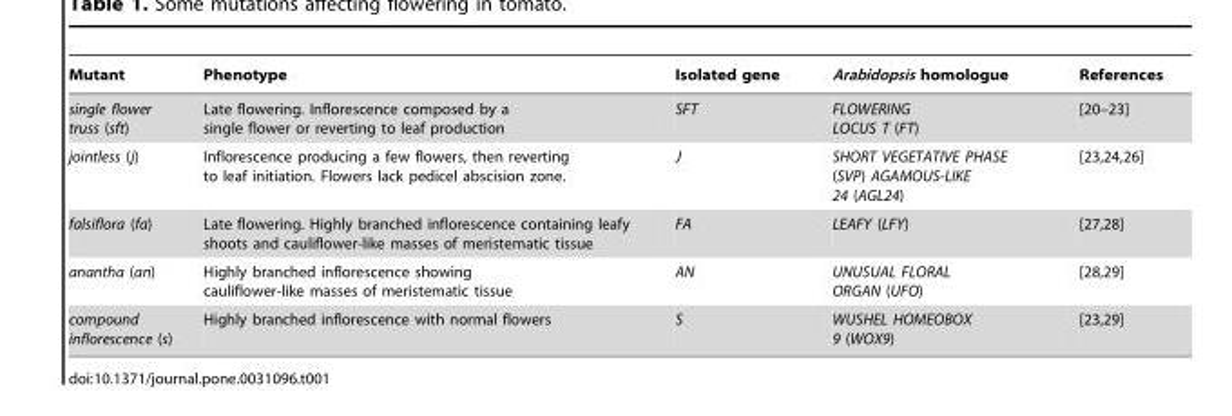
<table><thead><tr><td>Mutant</td><td>Phenotype</td><td>Isolated gene</td><td>Arabidopsis homologue</td><td>References</td></tr></thead><tbody><tr><td>single flower truss (sft)</td><td>Late flowering. Inflorescence composed by a single flower or reverting to leaf production</td><td>SFT</td><td>FLOWERING LOCUS T (FT)</td><td>[20–23]</td></tr><tr><td>jointless (j)</td><td>Inflorescence producing a few flowers, then reverting to leaf initiation. Flowers lack pedicel abscision zone.</td><td>J</td><td>SHORT VEGETATIVE PHASE (SVP) AGAMOUS-LIKE 24 (AGL24)</td><td>[23,24,26]</td></tr><tr><td>falsiflora (fa)</td><td>Late flowering. Highly branched inflorescence containing leafy shoots and cauliflower-like masses of meristematic tissue</td><td>FA</td><td>LEAFY (LFY)</td><td>[27,28]</td></tr><tr><td>anantha (an)</td><td>Highly branched inflorescence showing cauliflower-like masses of meristematic tissue</td><td>AN</td><td>UNUSUAL FLORAL ORGAN (UFO)</td><td>[28,29]</td></tr><tr><td>compound inflorescence (s)</td><td>Highly branched inflorescence with normal flowers</td><td>S</td><td>WUSHEL HOMEOBOX 9 (WOX9)</td><td>[23,29]</td></tr></tbody></table>